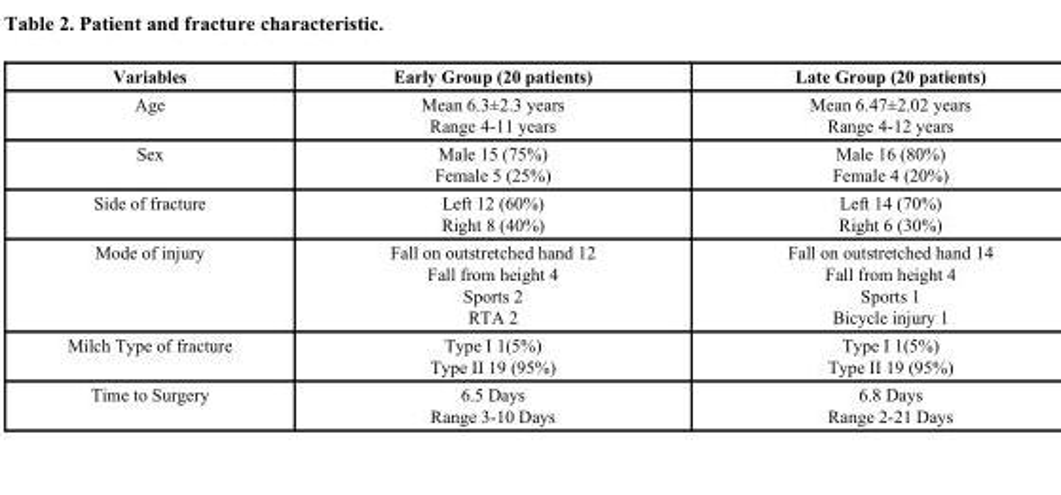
<table><thead><tr><td>Variables</td><td>Early Group (20 patients)</td><td>Late Group (20 patients)</td></tr></thead><tbody><tr><td>Age</td><td>Mean 6.3±2.3 years Range 4-11 years</td><td>Mean 6.47±2.02 years Range 4-12 years</td></tr><tr><td>Sex</td><td>Male 15 (75%) Female 5 (25%)</td><td>Male 16 (80%) Female 4 (20%)</td></tr><tr><td>Side of fracture</td><td>Left 12 (60%) Right 8 (40%)</td><td>Left 14 (70%) Right 6 (30%)</td></tr><tr><td>Mode of injury</td><td>Fall on outstretched hand 12 Fall from height 4 Sports 2 RTA 2</td><td>Fall on outstretched hand 14 Fall from height 4 Sports 1 Bicycle injury 1</td></tr><tr><td>Milch Type of fracture</td><td>Type I 1(5%) Type II 19 (95%)</td><td>Type I 1(5%) Type II 19 (95%)</td></tr><tr><td>Time to Surgery</td><td>6.5 Days Range 3-10 Days</td><td>6.8 Days Range 2-21 Days</td></tr></tbody></table>